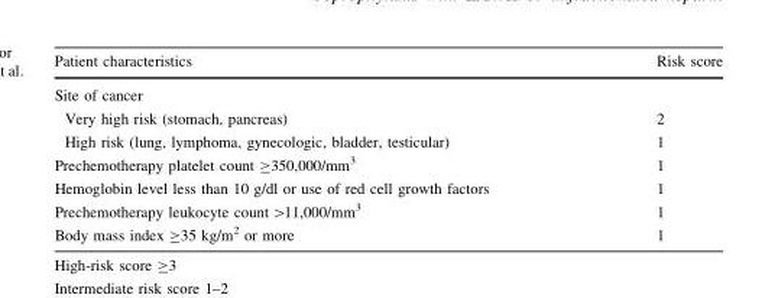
<table><thead><tr><td>Patient characteristics</td><td>Risk score</td></tr></thead><tbody><tr><td colspan="2">Site of cancer</td></tr><tr><td>Very high risk (stomach, pancreas)</td><td>2</td></tr><tr><td>High risk (lung, lymphoma, gynecologic, bladder, testicular)</td><td>1</td></tr><tr><td>Prechemotherapy platelet count ≥350,000/mm<sup>3</sup></td><td>1</td></tr><tr><td>Hemoglobin level less than 10 g/dl or use of red cell growth factors</td><td>1</td></tr><tr><td>Prechemotherapy leukocyte count &gt;11,000/mm<sup>3</sup></td><td>1</td></tr><tr><td>Body mass index ≥35 kg/m<sup>2</sup> or more</td><td>1</td></tr></tbody></table>